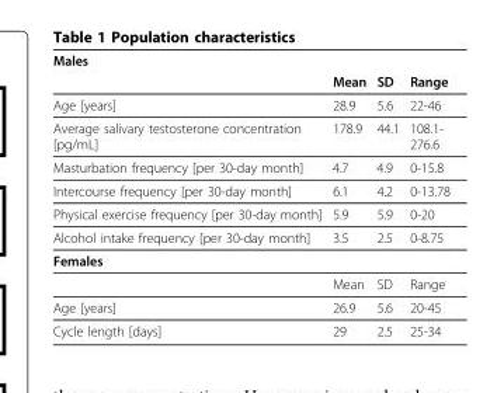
<table><thead><tr><td colspan="4">Males</td></tr><tr><td></td><td>Mean</td><td>SD</td><td>Range</td></tr></thead><tbody><tr><td>Age [years]</td><td>28.9</td><td>5.6</td><td>22-46</td></tr><tr><td>Average salivary testosterone concentration [pg/mL]</td><td>178.9</td><td>44.1</td><td>108.1- 276.6</td></tr><tr><td>Masturbation frequency [per 30-day month]</td><td>4.7</td><td>4.9</td><td>0-15.8</td></tr><tr><td>Intercourse frequency [per 30-day month]</td><td>6.1</td><td>4.2</td><td>0-13.78</td></tr><tr><td>Physical exercise frequency [per 30-day month]</td><td>5.9</td><td>5.9</td><td>0-20</td></tr><tr><td>Alcohol intake frequency [per 30-day month]</td><td>3.5</td><td>2.5</td><td>0-8.75</td></tr><tr><td colspan="4">Females</td></tr><tr><td></td><td>Mean</td><td>SD</td><td>Range</td></tr><tr><td>Age [years]</td><td>26.9</td><td>5.6</td><td>20-45</td></tr><tr><td>Cycle length [days]</td><td>29</td><td>2.5</td><td>25-34</td></tr></tbody></table>